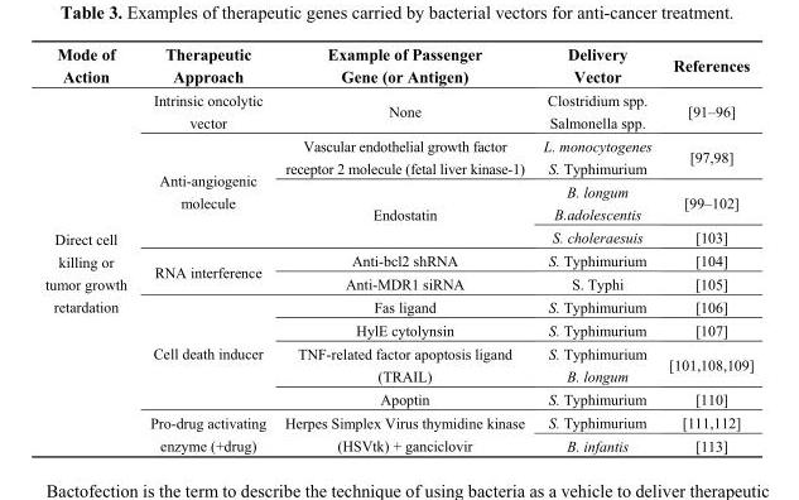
<table><thead><tr><td>Mode of Action</td><td>Therapeutic Approach</td><td>Example of Passenger Gene (or Antigen)</td><td>Delivery Vector</td><td>References</td></tr></thead><tbody><tr><td rowspan="12">Direct cell killing or tumor growth retardation</td><td>Intrinsic oncolytic vector</td><td>None</td><td>Clostridium spp. Salmonella spp.</td><td>[91–96]</td></tr><tr><td rowspan="3">Anti-angiogenic molecule</td><td>Vascular endothelial growth factor receptor 2 molecule (fetal liver kinase-1)</td><td>L. monocytogenes S. Typhimurium</td><td>[97,98]</td></tr><tr><td rowspan="2">Endostatin</td><td>B. longum B.adolescentis</td><td>[99–102]</td></tr><tr><td>S. choleraesuis</td><td>[103]</td></tr><tr><td rowspan="2">RNA interference</td><td>Anti-bcl2 shRNA</td><td>S. Typhimurium</td><td>[104]</td></tr><tr><td>Anti-MDR1 siRNA</td><td>S. Typhi</td><td>[105]</td></tr><tr><td rowspan="4">Cell death inducer</td><td>Fas ligand</td><td>S. Typhimurium</td><td>[106]</td></tr><tr><td>HylE cytolynsin</td><td>S. Typhimurium</td><td>[107]</td></tr><tr><td>TNF-related factor apoptosis ligand (TRAIL)</td><td>S. Typhimurium B. longum</td><td>[101,108,109]</td></tr><tr><td>Apoptin</td><td>S. Typhimurium</td><td>[110]</td></tr><tr><td rowspan="2">Pro-drug activating enzyme (+drug)</td><td rowspan="2">Herpes Simplex Virus thymidine kinase (HSVtk) + ganciclovir</td><td>S. Typhimurium</td><td>[111,112]</td></tr><tr><td>B. infantis</td><td>[113]</td></tr></tbody></table>